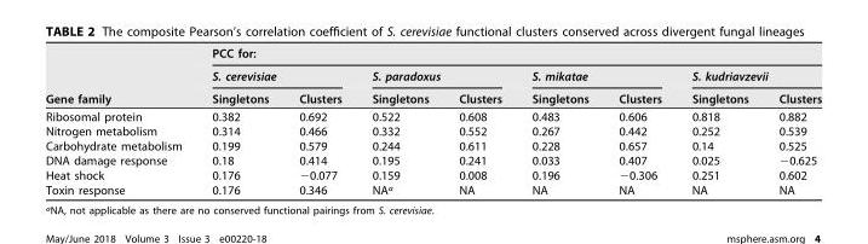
<table><thead><tr><td rowspan="3">Gene family</td><td colspan="8">PCC for:</td></tr><tr><td colspan="2">S. cerevisiae</td><td colspan="2">S. paradoxus</td><td colspan="2">S. mikatae</td><td colspan="2">S. kudriavzevii</td></tr><tr><td>Singletons</td><td>Clusters</td><td>Singletons</td><td>Clusters</td><td>Singletons</td><td>Clusters</td><td>Singletons</td><td>Clusters</td></tr></thead><tbody><tr><td>Ribosomal protein</td><td>0.382</td><td>0.692</td><td>0.522</td><td>0.608</td><td>0.483</td><td>0.606</td><td>0.818</td><td>0.882</td></tr><tr><td>Nitrogen metabolism</td><td>0.314</td><td>0.466</td><td>0.332</td><td>0.552</td><td>0.267</td><td>0.442</td><td>0.252</td><td>0.539</td></tr><tr><td>Carbohydrate metabolism</td><td>0.199</td><td>0.579</td><td>0.244</td><td>0.611</td><td>0.228</td><td>0.657</td><td>0.14</td><td>0.525</td></tr><tr><td>DNA damage response</td><td>0.18</td><td>0.414</td><td>0.195</td><td>0.241</td><td>0.033</td><td>0.407</td><td>0.025</td><td>−0.625</td></tr><tr><td>Heat shock</td><td>0.176</td><td>−0.077</td><td>0.159</td><td>0.008</td><td>0.196</td><td>−0.306</td><td>0.251</td><td>0.602</td></tr><tr><td>Toxin response</td><td>0.176</td><td>0.346</td><td>NA<sup>a</sup></td><td>NA</td><td>NA</td><td>NA</td><td>NA</td><td>NA</td></tr></tbody></table>